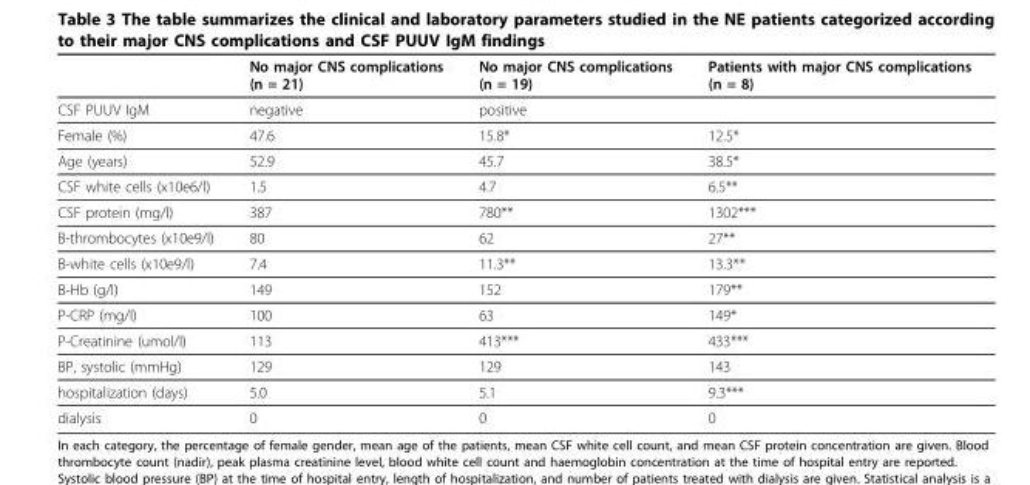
<table><thead><tr><td></td><td>No major CNS complications (n = 21)</td><td>No major CNS complications (n = 19)</td><td>Patients with major CNS complications (n = 8)</td></tr></thead><tbody><tr><td>CSF PUUV IgM</td><td>negative</td><td>positive</td><td></td></tr><tr><td>Female (%)</td><td>47.6</td><td>15.8*</td><td>12.5*</td></tr><tr><td>Age (years)</td><td>52.9</td><td>45.7</td><td>38.5*</td></tr><tr><td>CSF white cells (x10e6/l)</td><td>1.5</td><td>4.7</td><td>6.5**</td></tr><tr><td>CSF protein (mg/l)</td><td>387</td><td>780**</td><td>1302***</td></tr><tr><td>B-thrombocytes (x10e9/l)</td><td>80</td><td>62</td><td>27**</td></tr><tr><td>B-white cells (x10e9/l)</td><td>7.4</td><td>11.3**</td><td>13.3**</td></tr><tr><td>B-Hb (g/l)</td><td>149</td><td>152</td><td>179**</td></tr><tr><td>P-CRP (mg/l)</td><td>100</td><td>63</td><td>149*</td></tr><tr><td>P-Creatinine (umol/l)</td><td>113</td><td>413***</td><td>433***</td></tr><tr><td>BP, systolic (mmHg)</td><td>129</td><td>129</td><td>143</td></tr><tr><td>hospitalization (days)</td><td>5.0</td><td>5.1</td><td>9.3***</td></tr><tr><td>dialysis</td><td>0</td><td>0</td><td>0</td></tr></tbody></table>